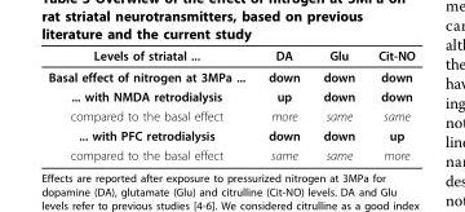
<table><thead><tr><td>Levels of striatal ...</td><td>DA</td><td>Glu</td><td>Cit-NO</td></tr></thead><tbody><tr><td>Basal effect of nitrogen at 3MPa ...</td><td>down</td><td>down</td><td>down</td></tr><tr><td>... with NMDA retrodialysis</td><td>up</td><td>down</td><td>down</td></tr><tr><td>compared to the basal effect</td><td>more</td><td>same</td><td>same</td></tr><tr><td>... with PFC retrodialysis</td><td>down</td><td>down</td><td>up</td></tr><tr><td>compared to the basal effect</td><td>same</td><td>same</td><td>more</td></tr></tbody></table>